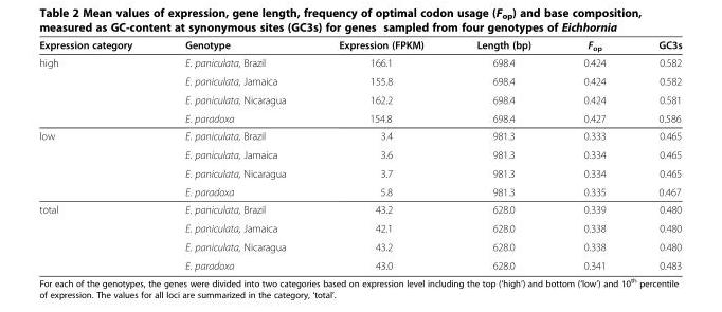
<table><thead><tr><td>Expression category</td><td>Genotype</td><td>Expression (FPKM)</td><td>Length (bp)</td><td>F<sub>op</sub></td><td>GC3s</td></tr></thead><tbody><tr><td rowspan="4">high</td><td>E. paniculata, Brazil</td><td>166.1</td><td>698.4</td><td>0.424</td><td>0.582</td></tr><tr><td>E. paniculata, Jamaica</td><td>155.8</td><td>698.4</td><td>0.424</td><td>0.582</td></tr><tr><td>E. paniculata, Nicaragua</td><td>162.2</td><td>698.4</td><td>0.424</td><td>0.581</td></tr><tr><td>E. paradoxa</td><td>154.8</td><td>698.4</td><td>0.427</td><td>0.586</td></tr><tr><td rowspan="4">low</td><td>E. paniculata, Brazil</td><td>3.4</td><td>981.3</td><td>0.333</td><td>0.465</td></tr><tr><td>E. paniculata, Jamaica</td><td>3.6</td><td>981.3</td><td>0.334</td><td>0.465</td></tr><tr><td>E. paniculata, Nicaragua</td><td>3.7</td><td>981.3</td><td>0.334</td><td>0.465</td></tr><tr><td>E. paradoxa</td><td>5.8</td><td>981.3</td><td>0.335</td><td>0.467</td></tr><tr><td rowspan="4">total</td><td>E. paniculata, Brazil</td><td>43.2</td><td>628.0</td><td>0.339</td><td>0.480</td></tr><tr><td>E. paniculata, Jamaica</td><td>42.1</td><td>628.0</td><td>0.338</td><td>0.480</td></tr><tr><td>E. paniculata, Nicaragua</td><td>43.2</td><td>628.0</td><td>0.338</td><td>0.480</td></tr><tr><td>E. paradoxa</td><td>43.0</td><td>628.0</td><td>0.341</td><td>0.483</td></tr></tbody></table>